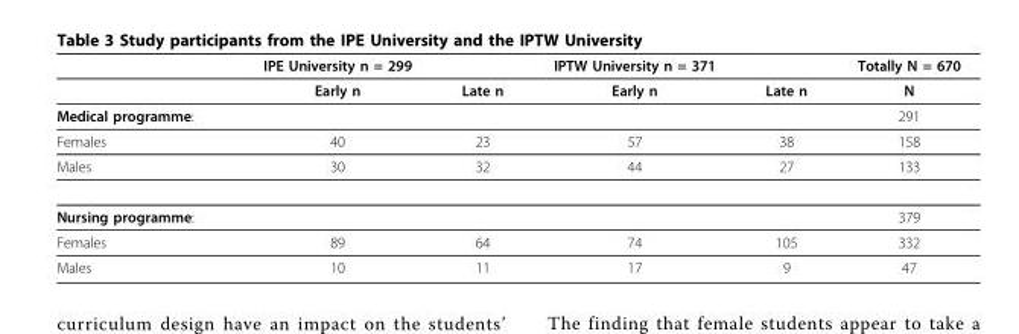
<table><thead><tr><td></td><td>IPE University n = 299</td><td></td><td>IPTW University n = 371</td><td></td><td>Totally N = 670</td></tr></thead><tbody><tr><td></td><td>Early n</td><td>Late n</td><td>Early n</td><td>Late n</td><td>N</td></tr><tr><td>Medical programme:</td><td></td><td></td><td></td><td></td><td>291</td></tr><tr><td>Females</td><td>40</td><td>23</td><td>57</td><td>38</td><td>158</td></tr><tr><td>Males</td><td>30</td><td>32</td><td>44</td><td>27</td><td>133</td></tr><tr><td>Nursing programme:</td><td></td><td></td><td></td><td></td><td>379</td></tr><tr><td>Females</td><td>89</td><td>64</td><td>74</td><td>105</td><td>332</td></tr><tr><td>Males</td><td>10</td><td>11</td><td>17</td><td>9</td><td>47</td></tr></tbody></table>